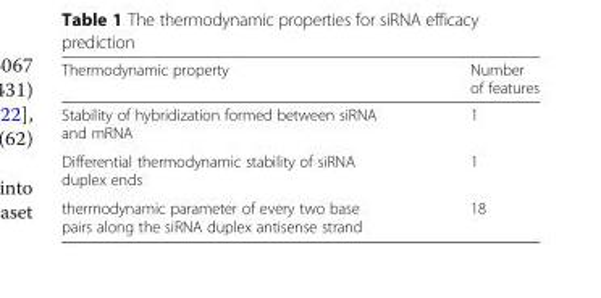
<table><thead><tr><td>Thermodynamic property</td><td>Number of features</td></tr></thead><tbody><tr><td>Stability of hybridization formed between siRNA and mRNA</td><td>1</td></tr><tr><td>Differential thermodynamic stability of siRNA duplex ends</td><td>1</td></tr><tr><td>thermodynamic parameter of every two base pairs along the siRNA duplex antisense strand</td><td>18</td></tr></tbody></table>